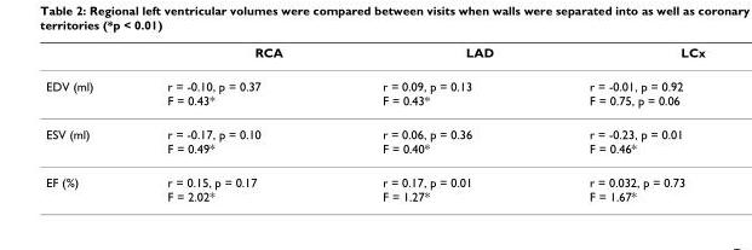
<table><thead><tr><td></td><td>RCA</td><td>LAD</td><td>LCx</td></tr></thead><tbody><tr><td>EDV (ml)</td><td>r = -0.10, p = 0.37 F = 0.43*</td><td>r = 0.09, p = 0.13 F = 0.43*</td><td>r = -0.01, p = 0.92 F = 0.75, p = 0.06</td></tr><tr><td>ESV (ml)</td><td>r = -0.17, p = 0.10 F = 0.49*</td><td>r = 0.06, p = 0.36 F = 0.40*</td><td>r = -0.23, p = 0.01 F = 0.46*</td></tr><tr><td>EF (%)</td><td>r = 0.15, p = 0.17 F = 2.02*</td><td>r = 0.17, p = 0.01 F = 1.27*</td><td>r = 0.032, p = 0.73 F = 1.67*</td></tr></tbody></table>